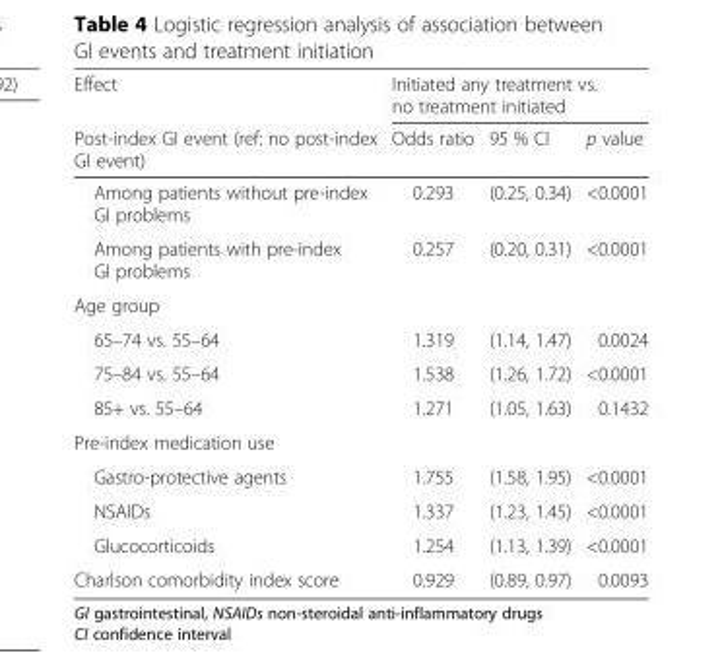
<table><thead><tr><td rowspan="2">Effect Post-index GI event (ref: no post-index GI event)</td><td colspan="3">Initiated any treatment vs. no treatment initiated</td></tr><tr><td>Odds ratio</td><td>95 % CI</td><td>p value</td></tr></thead><tbody><tr><td>Among patients without pre-index GI problems</td><td>0.293</td><td>(0.25, 0.34)</td><td>&lt;0.0001</td></tr><tr><td>Among patients with pre-index GI problems</td><td>0.257</td><td>(0.20, 0.31)</td><td>&lt;0.0001</td></tr><tr><td colspan="4">Age group</td></tr><tr><td>65–74 vs. 55–64</td><td>1.319</td><td>(1.14, 1.47)</td><td>0.0024</td></tr><tr><td>75–84 vs. 55–64</td><td>1.538</td><td>(1.26, 1.72)</td><td>&lt;0.0001</td></tr><tr><td>85+ vs. 55–64</td><td>1.271</td><td>(1.05, 1.63)</td><td>0.1432</td></tr><tr><td colspan="4">Pre-index medication use</td></tr><tr><td>Gastro-protective agents</td><td>1.755</td><td>(1.58, 1.95)</td><td>&lt;0.0001</td></tr><tr><td>NSAIDs</td><td>1.337</td><td>(1.23, 1.45)</td><td>&lt;0.0001</td></tr><tr><td>Glucocorticoids</td><td>1.254</td><td>(1.13, 1.39)</td><td>&lt;0.0001</td></tr><tr><td>Charlson comorbidity index score</td><td>0.929</td><td>(0.89, 0.97)</td><td>0.0093</td></tr></tbody></table>